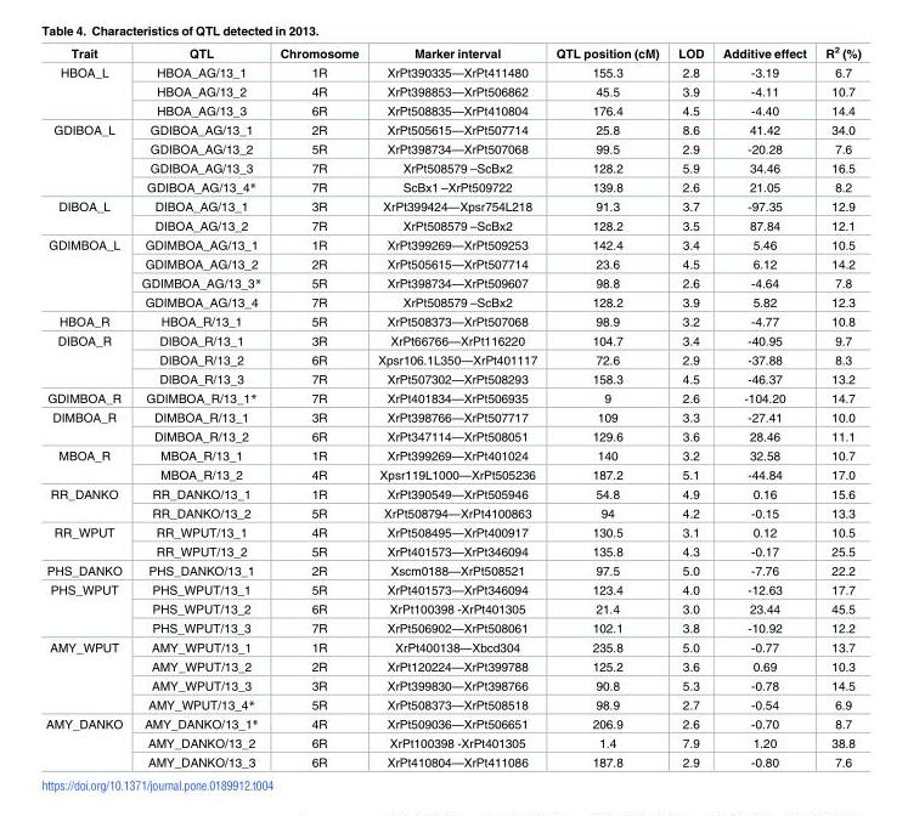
<table><thead><tr><td>Trait</td><td>QTL</td><td>Chromosome</td><td>Marker interval</td><td>QTL position (cM)</td><td>LOD</td><td>Additive effect</td><td>R<sup>2</sup> (%)</td></tr></thead><tbody><tr><td rowspan="3">HBOA_L</td><td>HBOA_AG/13_1</td><td>1R</td><td>XrPt390335—XrPt411480</td><td>155.3</td><td>2.8</td><td>-3.19</td><td>6.7</td></tr><tr><td>HBOA_AG/13_2</td><td>4R</td><td>XrPt398853—XrPt506862</td><td>45.5</td><td>3.9</td><td>-4.11</td><td>10.7</td></tr><tr><td>HBOA_AG/13_3</td><td>6R</td><td>XrPt508835—XrPt410804</td><td>176.4</td><td>4.5</td><td>-4.40</td><td>14.4</td></tr><tr><td rowspan="4">GDIBOA_L</td><td>GDIBOA_AG/13_1</td><td>2R</td><td>XrPt505615—XrPt507714</td><td>25.8</td><td>8.6</td><td>41.42</td><td>34.0</td></tr><tr><td>GDIBOA_AG/13_2</td><td>5R</td><td>XrPt398734—XrPt507068</td><td>99.5</td><td>2.9</td><td>-20.28</td><td>7.6</td></tr><tr><td>GDIBOA_AG/13_3</td><td>7R</td><td>XrPt508579 –ScBx2</td><td>128.2</td><td>5.9</td><td>34.46</td><td>16.5</td></tr><tr><td>GDIBOA_AG/13_4*</td><td>7R</td><td>ScBx1 –XrPt509722</td><td>139.8</td><td>2.6</td><td>21.05</td><td>8.2</td></tr><tr><td rowspan="2">DIBOA_L</td><td>DIBOA_AG/13_1</td><td>3R</td><td>XrPt399424—Xpsr754L218</td><td>91.3</td><td>3.7</td><td>-97.35</td><td>12.9</td></tr><tr><td>DIBOA_AG/13_2</td><td>7R</td><td>XrPt508579 –ScBx2</td><td>128.2</td><td>3.5</td><td>87.84</td><td>12.1</td></tr><tr><td rowspan="4">GDIMBOA_L</td><td>GDIMBOA_AG/13_1</td><td>1R</td><td>XrPt399269—XrPt509253</td><td>142.4</td><td>3.4</td><td>5.46</td><td>10.5</td></tr><tr><td>GDIMBOA_AG/13_2</td><td>2R</td><td>XrPt505615—XrPt507714</td><td>23.6</td><td>4.5</td><td>6.12</td><td>14.2</td></tr><tr><td>GDIMBOA_AG/13_3*</td><td>5R</td><td>XrPt398734—XrPt509607</td><td>98.8</td><td>2.6</td><td>-4.64</td><td>7.8</td></tr><tr><td>GDIMBOA_AG/13_4</td><td>7R</td><td>XrPt508579 –ScBx2</td><td>128.2</td><td>3.9</td><td>5.82</td><td>12.3</td></tr><tr><td>HBOA_R</td><td>HBOA_R/13_1</td><td>5R</td><td>XrPt508373—XrPt507068</td><td>98.9</td><td>3.2</td><td>-4.77</td><td>10.8</td></tr><tr><td rowspan="3">DIBOA_R</td><td>DIBOA_R/13_1</td><td>3R</td><td>XrPt66766—XrPt116220</td><td>104.7</td><td>3.4</td><td>-40.95</td><td>9.7</td></tr><tr><td>DIBOA_R/13_2</td><td>6R</td><td>Xpsr106.1L350—XrPt401117</td><td>72.6</td><td>2.9</td><td>-37.88</td><td>8.3</td></tr><tr><td>DIBOA_R/13_3</td><td>7R</td><td>XrPt507302—XrPt508293</td><td>158.3</td><td>4.5</td><td>-46.37</td><td>13.2</td></tr><tr><td>GDIMBOA_R</td><td>GDIMBOA_R/13_1*</td><td>7R</td><td>XrPt401834—XrPt506935</td><td>9</td><td>2.6</td><td>-104.20</td><td>14.7</td></tr><tr><td rowspan="2">DIMBOA_R</td><td>DIMBOA_R/13_1</td><td>3R</td><td>XrPt398766—XrPt507717</td><td>109</td><td>3.3</td><td>-27.41</td><td>10.0</td></tr><tr><td>DIMBOA_R/13_2</td><td>6R</td><td>XrPt347114—XrPt508051</td><td>129.6</td><td>3.6</td><td>28.46</td><td>11.1</td></tr><tr><td rowspan="2">MBOA_R</td><td>MBOA_R/13_1</td><td>1R</td><td>XrPt399269—XrPt401024</td><td>140</td><td>3.2</td><td>32.58</td><td>10.7</td></tr><tr><td>MBOA_R/13_2</td><td>4R</td><td>Xpsr119L1000—XrPt505236</td><td>187.2</td><td>5.1</td><td>-44.84</td><td>17.0</td></tr><tr><td rowspan="2">RR_DANKO</td><td>RR_DANKO/13_1</td><td>1R</td><td>XrPt390549—XrPt505946</td><td>54.8</td><td>4.9</td><td>0.16</td><td>15.6</td></tr><tr><td>RR_DANKO/13_2</td><td>5R</td><td>XrPt508794—XrPt4100863</td><td>94</td><td>4.2</td><td>-0.15</td><td>13.3</td></tr><tr><td rowspan="2">RR_WPUT</td><td>RR_WPUT/13_1</td><td>4R</td><td>XrPt508495—XrPt400917</td><td>130.5</td><td>3.1</td><td>0.12</td><td>10.5</td></tr><tr><td>RR_WPUT/13_2</td><td>5R</td><td>XrPt401573—XrPt346094</td><td>135.8</td><td>4.3</td><td>-0.17</td><td>25.5</td></tr><tr><td>PHS_DANKO</td><td>PHS_DANKO/13_1</td><td>2R</td><td>Xscm0188—XrPt508521</td><td>97.5</td><td>5.0</td><td>-7.76</td><td>22.2</td></tr><tr><td rowspan="3">PHS_WPUT</td><td>PHS_WPUT/13_1</td><td>5R</td><td>XrPt401573—XrPt346094</td><td>123.4</td><td>4.0</td><td>-12.63</td><td>17.7</td></tr><tr><td>PHS_WPUT/13_2</td><td>6R</td><td>XrPt100398 -XrPt401305</td><td>21.4</td><td>3.0</td><td>23.44</td><td>45.5</td></tr><tr><td>PHS_WPUT/13_3</td><td>7R</td><td>XrPt506902—XrPt508061</td><td>102.1</td><td>3.8</td><td>-10.92</td><td>12.2</td></tr><tr><td rowspan="4">AMY_WPUT</td><td>AMY_WPUT/13_1</td><td>1R</td><td>XrPt400138—Xbcd304</td><td>235.8</td><td>5.0</td><td>-0.77</td><td>13.7</td></tr><tr><td>AMY_WPUT/13_2</td><td>2R</td><td>XrPt120224—XrPt399788</td><td>125.2</td><td>3.6</td><td>0.69</td><td>10.3</td></tr><tr><td>AMY_WPUT/13_3</td><td>3R</td><td>XrPt399830—XrPt398766</td><td>90.8</td><td>5.3</td><td>-0.78</td><td>14.5</td></tr><tr><td>AMY_WPUT/13_4*</td><td>5R</td><td>XrPt508373—XrPt508518</td><td>98.9</td><td>2.7</td><td>-0.54</td><td>6.9</td></tr><tr><td rowspan="3">AMY_DANKO</td><td>AMY_DANKO/13_1*</td><td>4R</td><td>XrPt509036—XrPt506651</td><td>206.9</td><td>2.6</td><td>-0.70</td><td>8.7</td></tr><tr><td>AMY_DANKO/13_2</td><td>6R</td><td>XrPt100398 -XrPt401305</td><td>1.4</td><td>7.9</td><td>1.20</td><td>38.8</td></tr><tr><td>AMY_DANKO/13_3</td><td>6R</td><td>XrPt410804—XrPt411086</td><td>187.8</td><td>2.9</td><td>-0.80</td><td>7.6</td></tr></tbody></table>